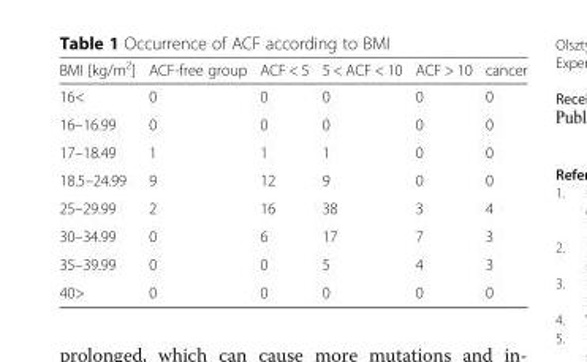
<table><thead><tr><td>BMI [kg/m<sup>2</sup>]</td><td>ACF-free group</td><td>ACF &lt; 5</td><td>5 &lt; ACF &lt; 10</td><td>ACF &gt; 10</td><td>cancer</td></tr></thead><tbody><tr><td>16&lt;</td><td>0</td><td>0</td><td>0</td><td>0</td><td>0</td></tr><tr><td>16–16.99</td><td>0</td><td>0</td><td>0</td><td>0</td><td>0</td></tr><tr><td>17–18.49</td><td>1</td><td>1</td><td>1</td><td>0</td><td>0</td></tr><tr><td>18.5–24.99</td><td>9</td><td>12</td><td>9</td><td>0</td><td>0</td></tr><tr><td>25–29.99</td><td>2</td><td>16</td><td>38</td><td>3</td><td>4</td></tr><tr><td>30–34.99</td><td>0</td><td>6</td><td>17</td><td>7</td><td>3</td></tr><tr><td>35–39.99</td><td>0</td><td>0</td><td>5</td><td>4</td><td>3</td></tr><tr><td>40&gt;</td><td>0</td><td>0</td><td>0</td><td>0</td><td>0</td></tr></tbody></table>